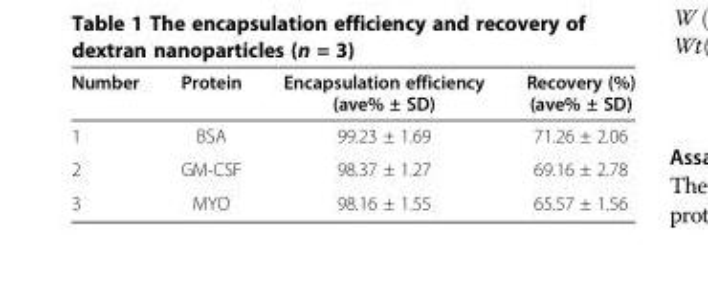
<table><thead><tr><td>Number</td><td>Protein</td><td>Encapsulation efficiency (ave% ± SD)</td><td>Recovery (%) (ave% ± SD)</td></tr></thead><tbody><tr><td>1</td><td>BSA</td><td>99.23 ± 1.69</td><td>71.26 ± 2.06</td></tr><tr><td>2</td><td>GM-CSF</td><td>98.37 ± 1.27</td><td>69.16 ± 2.78</td></tr><tr><td>3</td><td>MYO</td><td>98.16 ± 1.55</td><td>65.57 ± 1.56</td></tr></tbody></table>